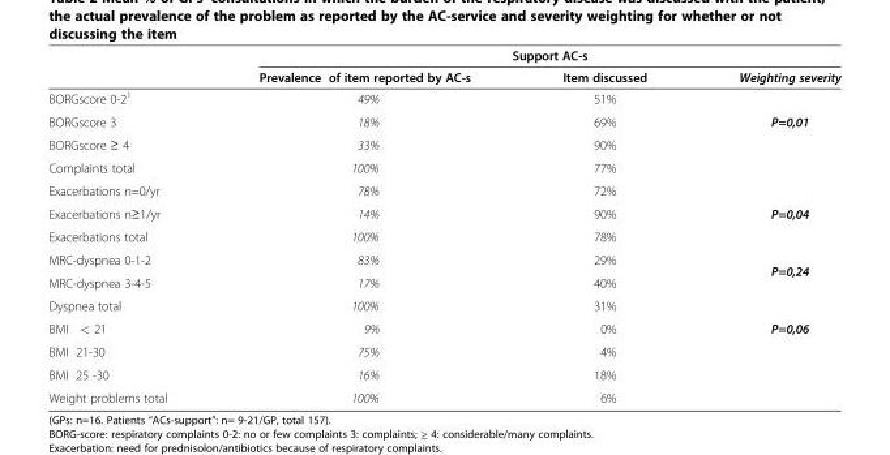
<table><thead><tr><td rowspan="2"></td><td colspan="3">Support AC-s</td></tr><tr><td>Prevalence of item reported by AC-s</td><td>Item discussed</td><td>Weighting severity</td></tr></thead><tbody><tr><td>BORGscore 0-2<sup>1</sup></td><td>49%</td><td>51%</td><td rowspan="3">P=0,01</td></tr><tr><td>BORGscore 3</td><td>18%</td><td>69%</td></tr><tr><td>BORGscore ≥ 4</td><td>33%</td><td>90%</td></tr><tr><td>Complaints total</td><td>100%</td><td>77%</td><td></td></tr><tr><td>Exacerbations n=0/yr</td><td>78%</td><td>72%</td><td rowspan="3">P=0,04</td></tr><tr><td>Exacerbations n≥1/yr</td><td>14%</td><td>90%</td></tr><tr><td>Exacerbations total</td><td>100%</td><td>78%</td></tr><tr><td>MRC-dyspnea 0-1-2</td><td>83%</td><td>29%</td><td rowspan="2">P=0,24</td></tr><tr><td>MRC-dyspnea 3-4-5</td><td>17%</td><td>40%</td></tr><tr><td>Dyspnea total</td><td>100%</td><td>31%</td><td></td></tr><tr><td>BMI &lt; 21</td><td>9%</td><td>0%</td><td rowspan="3">P=0,06</td></tr><tr><td>BMI 21-30</td><td>75%</td><td>4%</td></tr><tr><td>BMI 25 -30</td><td>16%</td><td>18%</td></tr><tr><td>Weight problems total</td><td>100%</td><td>6%</td><td></td></tr></tbody></table>